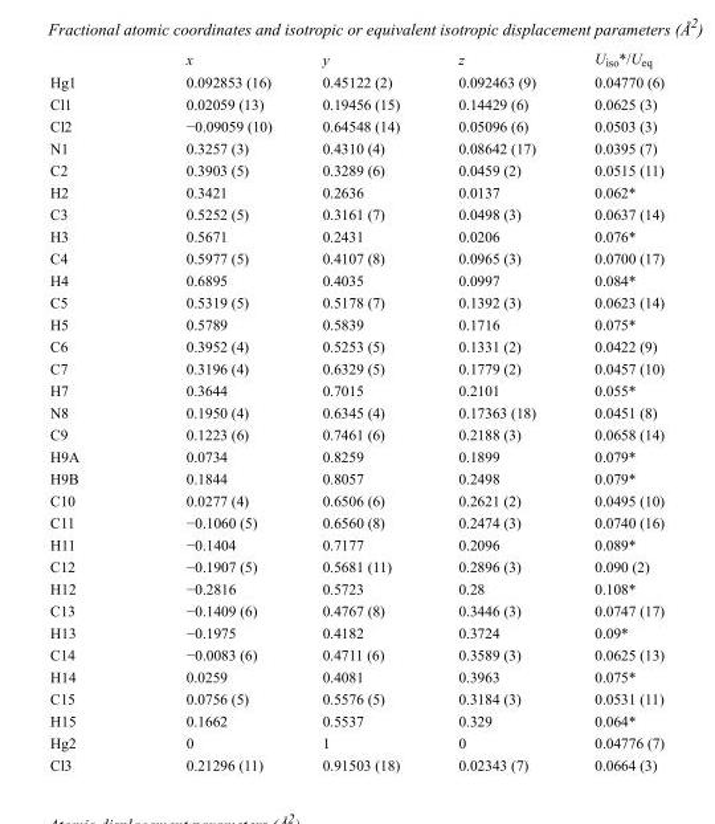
<table><thead><tr><td></td><td>x</td><td>y</td><td>z</td><td>U<sub>iso</sub>*/U<sub>eq</sub></td></tr></thead><tbody><tr><td>Hg1</td><td>0.092853 (16)</td><td>0.45122 (2)</td><td>0.092463 (9)</td><td>0.04770 (6)</td></tr><tr><td>Cl1</td><td>0.02059 (13)</td><td>0.19456 (15)</td><td>0.14429 (6)</td><td>0.0625 (3)</td></tr><tr><td>Cl2</td><td>−0.09059 (10)</td><td>0.64548 (14)</td><td>0.05096 (6)</td><td>0.0503 (3)</td></tr><tr><td>N1</td><td>0.3257 (3)</td><td>0.4310 (4)</td><td>0.08642 (17)</td><td>0.0395 (7)</td></tr><tr><td>C2</td><td>0.3903 (5)</td><td>0.3289 (6)</td><td>0.0459 (2)</td><td>0.0515 (11)</td></tr><tr><td>H2</td><td>0.3421</td><td>0.2636</td><td>0.0137</td><td>0.062*</td></tr><tr><td>C3</td><td>0.5252 (5)</td><td>0.3161 (7)</td><td>0.0498 (3)</td><td>0.0637 (14)</td></tr><tr><td>H3</td><td>0.5671</td><td>0.2431</td><td>0.0206</td><td>0.076*</td></tr><tr><td>C4</td><td>0.5977 (5)</td><td>0.4107 (8)</td><td>0.0965 (3)</td><td>0.0700 (17)</td></tr><tr><td>H4</td><td>0.6895</td><td>0.4035</td><td>0.0997</td><td>0.084*</td></tr><tr><td>C5</td><td>0.5319 (5)</td><td>0.5178 (7)</td><td>0.1392 (3)</td><td>0.0623 (14)</td></tr><tr><td>H5</td><td>0.5789</td><td>0.5839</td><td>0.1716</td><td>0.075*</td></tr><tr><td>C6</td><td>0.3952 (4)</td><td>0.5253 (5)</td><td>0.1331 (2)</td><td>0.0422 (9)</td></tr><tr><td>C7</td><td>0.3196 (4)</td><td>0.6329 (5)</td><td>0.1779 (2)</td><td>0.0457 (10)</td></tr><tr><td>H7</td><td>0.3644</td><td>0.7015</td><td>0.2101</td><td>0.055*</td></tr><tr><td>N8</td><td>0.1950 (4)</td><td>0.6345 (4)</td><td>0.17363 (18)</td><td>0.0451 (8)</td></tr><tr><td>C9</td><td>0.1223 (6)</td><td>0.7461 (6)</td><td>0.2188 (3)</td><td>0.0658 (14)</td></tr><tr><td>H9A</td><td>0.0734</td><td>0.8259</td><td>0.1899</td><td>0.079*</td></tr><tr><td>H9B</td><td>0.1844</td><td>0.8057</td><td>0.2498</td><td>0.079*</td></tr><tr><td>C10</td><td>0.0277 (4)</td><td>0.6506 (6)</td><td>0.2621 (2)</td><td>0.0495 (10)</td></tr><tr><td>C11</td><td>−0.1060 (5)</td><td>0.6560 (8)</td><td>0.2474 (3)</td><td>0.0740 (16)</td></tr><tr><td>H11</td><td>−0.1404</td><td>0.7177</td><td>0.2096</td><td>0.089*</td></tr><tr><td>C12</td><td>−0.1907 (5)</td><td>0.5681 (11)</td><td>0.2896 (3)</td><td>0.090 (2)</td></tr><tr><td>H12</td><td>−0.2816</td><td>0.5723</td><td>0.28</td><td>0.108*</td></tr><tr><td>C13</td><td>−0.1409 (6)</td><td>0.4767 (8)</td><td>0.3446 (3)</td><td>0.0747 (17)</td></tr><tr><td>H13</td><td>−0.1975</td><td>0.4182</td><td>0.3724</td><td>0.09*</td></tr><tr><td>C14</td><td>−0.0083 (6)</td><td>0.4711 (6)</td><td>0.3589 (3)</td><td>0.0625 (13)</td></tr><tr><td>H14</td><td>0.0259</td><td>0.4081</td><td>0.3963</td><td>0.075*</td></tr><tr><td>C15</td><td>0.0756 (5)</td><td>0.5576 (5)</td><td>0.3184 (3)</td><td>0.0531 (11)</td></tr><tr><td>H15</td><td>0.1662</td><td>0.5537</td><td>0.329</td><td>0.064*</td></tr><tr><td>Hg2</td><td>0</td><td>1</td><td>0</td><td>0.04776 (7)</td></tr><tr><td>Cl3</td><td>0.21296 (11)</td><td>0.91503 (18)</td><td>0.02343 (7)</td><td>0.0664 (3)</td></tr></tbody></table>